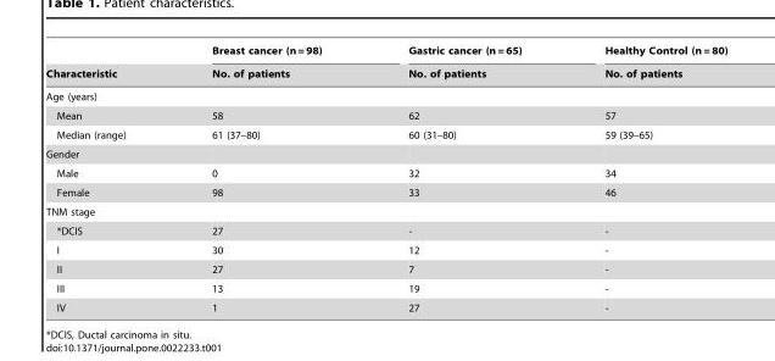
<table><thead><tr><td rowspan="2">Characteristic</td><td rowspan="2">Breast cancer (n = 98) No. of patients</td><td rowspan="2">Gastric cancer (n = 65) No. of patients</td><td rowspan="2">Healthy Control (n = 80) No. of patients</td></tr><tr></tr></thead><tbody><tr><td colspan="4">Age (years)</td></tr><tr><td>Mean</td><td>58</td><td>62</td><td>57</td></tr><tr><td>Median (range)</td><td>61 (37–80)</td><td>60 (31–80)</td><td>59 (39–65)</td></tr><tr><td colspan="4">Gender</td></tr><tr><td>Male</td><td>0</td><td>32</td><td>34</td></tr><tr><td>Female</td><td>98</td><td>33</td><td>46</td></tr><tr><td colspan="4">TNM stage</td></tr><tr><td>*DCIS</td><td>27</td><td>-</td><td>-</td></tr><tr><td>I</td><td>30</td><td>12</td><td>-</td></tr><tr><td>II</td><td>27</td><td>7</td><td>-</td></tr><tr><td>III</td><td>13</td><td>19</td><td>-</td></tr><tr><td>IV</td><td>1</td><td>27</td><td>-</td></tr></tbody></table>